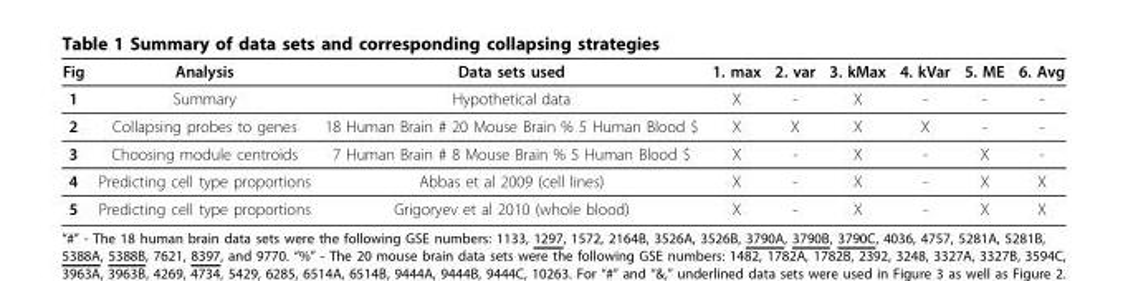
<table><thead><tr><td>Fig</td><td>Analysis</td><td>Data sets used</td><td>1. max</td><td>2. var</td><td>3. kMax</td><td>4. kVar</td><td>5. ME</td><td>6. Avg</td></tr></thead><tbody><tr><td>1</td><td>Summary</td><td>Hypothetical data</td><td>X</td><td>-</td><td>X</td><td>-</td><td>-</td><td>-</td></tr><tr><td>2</td><td>Collapsing probes to genes</td><td>18 Human Brain # 20 Mouse Brain % 5 Human Blood $</td><td>X</td><td>X</td><td>X</td><td>X</td><td>-</td><td>-</td></tr><tr><td>3</td><td>Choosing module centroids</td><td>7 Human Brain # 8 Mouse Brain % 5 Human Blood $</td><td>X</td><td>-</td><td>X</td><td>-</td><td>X</td><td>-</td></tr><tr><td>4</td><td>Predicting cell type proportions</td><td>Abbas et al 2009 (cell lines)</td><td>X</td><td>-</td><td>X</td><td>-</td><td>X</td><td>X</td></tr><tr><td>5</td><td>Predicting cell type proportions</td><td>Grigoryev et al 2010 (whole blood)</td><td>X</td><td>-</td><td>X</td><td>-</td><td>X</td><td>X</td></tr></tbody></table>